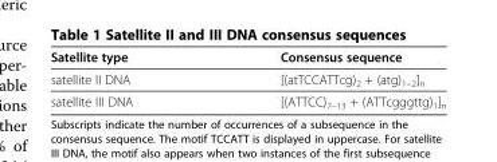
<table><thead><tr><td>Satellite type</td><td>Consensus sequence</td></tr></thead><tbody><tr><td>satellite II DNA</td><td>[(atTCCATTcg)<sub>2</sub> + (atg)<sub>1–2</sub>]<sub>n</sub></td></tr><tr><td>satellite III DNA</td><td>[(ATTCC)<sub>7–13</sub> + (ATTcgggttg)<sub>1</sub>]<sub>n</sub></td></tr></tbody></table>